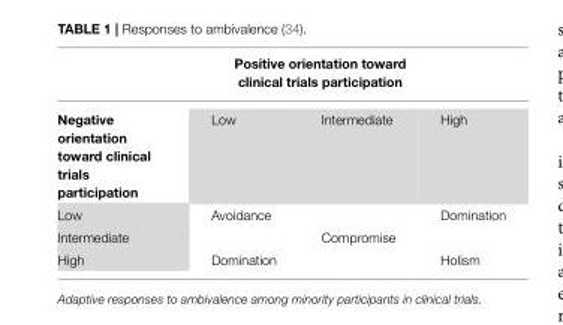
<table><thead><tr><td rowspan="2">Negative orientation toward clinical trials participation</td><td colspan="3">Positive orientation toward clinical trials participation</td></tr><tr><td>Low</td><td>Intermediate</td><td>High</td></tr></thead><tbody><tr><td>Low</td><td>Avoidance</td><td></td><td>Domination</td></tr><tr><td>Intermediate</td><td></td><td>Compromise</td><td></td></tr><tr><td>High</td><td>Domination</td><td></td><td>Holism</td></tr></tbody></table>